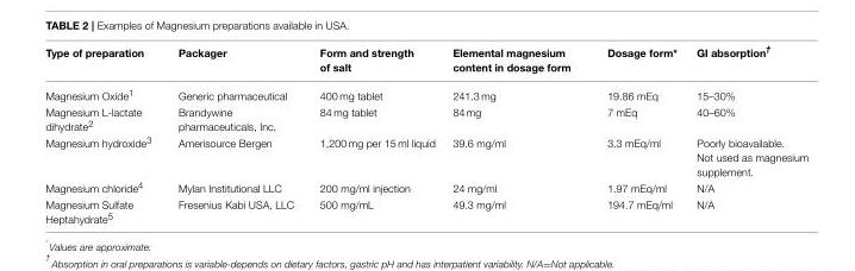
<table><thead><tr><td>Type of preparation</td><td>Packager</td><td>Form and strength of salt</td><td>Elemental magnesium content in dosage form</td><td>Dosage form*</td><td>GI absorption<sup>†</sup></td></tr></thead><tbody><tr><td>Magnesium Oxide<sup>1</sup></td><td>Generic pharmaceutical</td><td>400 mg tablet</td><td>241.3 mg</td><td>19.86 mEq</td><td>15–30%</td></tr><tr><td>Magnesium L-lactate dihydrate<sup>2</sup></td><td>Brandywine pharmaceuticals, Inc.</td><td>84 mg tablet</td><td>84 mg</td><td>7 mEq</td><td>40–60%</td></tr><tr><td>Magnesium hydroxide<sup>3</sup></td><td>Amerisource Bergen</td><td>1,200 mg per 15 ml liquid</td><td>39.6 mg/ml</td><td>3.3 mEq/ml</td><td>Poorly bioavailable. Not used as magnesium supplement.</td></tr><tr><td>Magnesium chloride<sup>4</sup></td><td>Mylan Institutional LLC</td><td>200 mg/ml injection</td><td>24 mg/ml</td><td>1.97 mEq/ml</td><td>N/A</td></tr><tr><td>Magnesium Sulfate Heptahydrate<sup>5</sup></td><td>Fresenius Kabi USA, LLC</td><td>500 mg/mL</td><td>49.3 mg/ml</td><td>194.7 mEq/ml</td><td>N/A</td></tr></tbody></table>